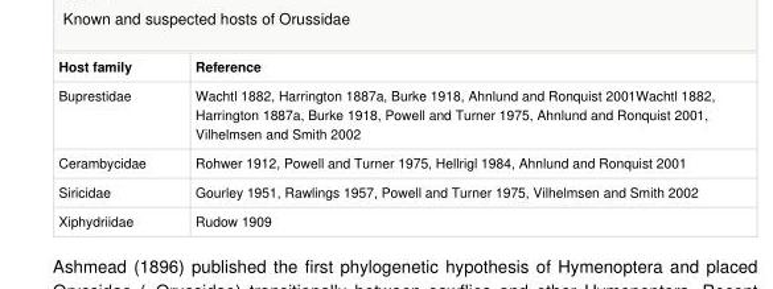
<table><tbody><tr><td>Host family</td><td>Reference</td></tr><tr><td>Buprestidae</td><td>Wachtl 1882, Harrington 1887a, Burke 1918, Ahnlund and Ronquist 2001Wachtl 1882, Harrington 1887a, Burke 1918, Powell and Turner 1975, Ahnlund and Ronquist 2001, Vilhelmsen and Smith 2002</td></tr><tr><td>Cerambycidae</td><td>Rohwer 1912, Powell and Turner 1975, Hellrigl 1984, Ahnlund and Ronquist 2001</td></tr><tr><td>Siricidae</td><td>Gourley 1951, Rawlings 1957, Powell and Turner 1975, Vilhelmsen and Smith 2002</td></tr><tr><td>Xiphydriidae</td><td>Rudow 1909</td></tr></tbody></table>